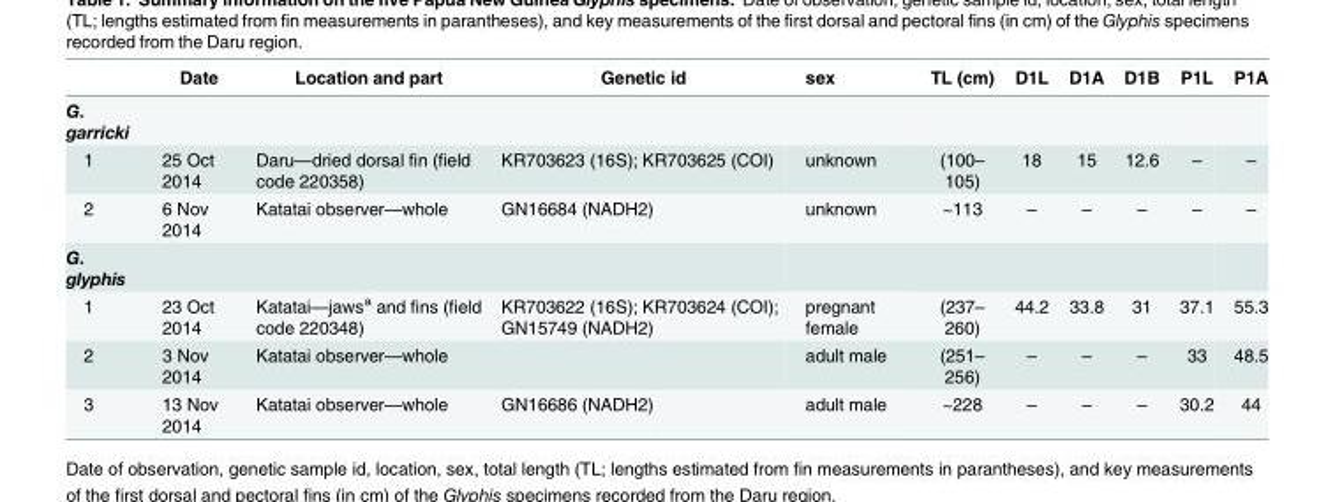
<table><thead><tr><td></td><td>Date</td><td>Location and part</td><td>Genetic id</td><td>sex</td><td>TL (cm)</td><td>D1L</td><td>D1A</td><td>D1B</td><td>P1L</td><td>P1A</td></tr></thead><tbody><tr><td colspan="11">G. garricki</td></tr><tr><td>1</td><td>25 Oct 2014</td><td>Daru—dried dorsal fin (field code 220358)</td><td>KR703623 (16S); KR703625 (COI)</td><td>unknown</td><td>(100– 105)</td><td>18</td><td>15</td><td>12.6</td><td>–</td><td>–</td></tr><tr><td>2</td><td>6 Nov 2014</td><td>Katatai observer—whole</td><td>GN16684 (NADH2)</td><td>unknown</td><td>~113</td><td>–</td><td>–</td><td>–</td><td>–</td><td>–</td></tr><tr><td colspan="11">G. glyphis</td></tr><tr><td>1</td><td>23 Oct 2014</td><td>Katatai—jaws<sup>a</sup> and fins (field code 220348)</td><td>KR703622 (16S); KR703624 (COI); GN15749 (NADH2)</td><td>pregnant female</td><td>(237– 260)</td><td>44.2</td><td>33.8</td><td>31</td><td>37.1</td><td>55.3</td></tr><tr><td>2</td><td>3 Nov 2014</td><td>Katatai observer—whole</td><td></td><td>adult male</td><td>(251– 256)</td><td>–</td><td>–</td><td>–</td><td>33</td><td>48.5</td></tr><tr><td>3</td><td>13 Nov 2014</td><td>Katatai observer—whole</td><td>GN16686 (NADH2)</td><td>adult male</td><td>~228</td><td>–</td><td>–</td><td>–</td><td>30.2</td><td>44</td></tr></tbody></table>